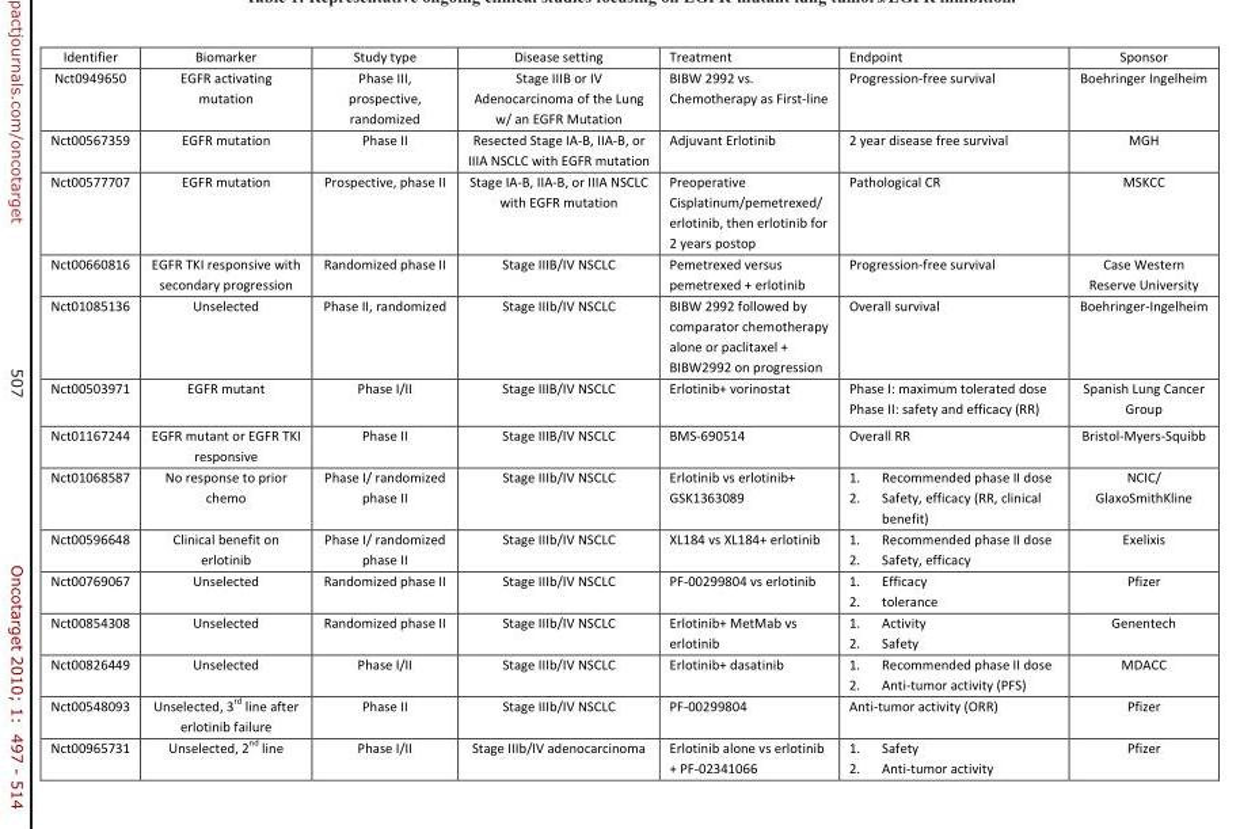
<table><thead><tr><td>Identifier</td><td>Biomarker</td><td>Study type</td><td>Disease setting</td><td>Treatment</td><td>Endpoint</td><td>Sponsor</td></tr></thead><tbody><tr><td>Nct0949650</td><td>EGFR activating mutation</td><td>Phase III, prospective, randomized</td><td>Stage IIIB or IV Adenocarcinoma of the Lung w/ an EGFR Mutation</td><td>BIBW 2992 vs. Chemotherapy as First-line</td><td>Progression-free survival</td><td>Boehringer Ingelheim</td></tr><tr><td>Nct00567359</td><td>EGFR mutation</td><td>Phase II</td><td>Resected Stage IA-B, IIA-B, or IIIA NSCLC with EGFR mutation</td><td>Adjuvant Erlotinib</td><td>2 year disease free survival</td><td>MGH</td></tr><tr><td>Nct00577707</td><td>EGFR mutation</td><td>Prospective, phase II</td><td>Stage IA-B, IIA-B, or IIIA NSCLC with EGFR mutation</td><td>Preoperative Cisplatinum/pemetrexed/ erlotinib, then erlotinib for 2 years postop</td><td>Pathological CR</td><td>MSKCC</td></tr><tr><td>Nct00660816</td><td>EGFR TKI responsive with secondary progression</td><td>Randomized phase II</td><td>Stage IIIB/IV NSCLC</td><td>Pemetrexed versus pemetrexed + erlotinib</td><td>Progression-free survival</td><td>Case Western Reserve University</td></tr><tr><td>Nct01085136</td><td>Unselected</td><td>Phase II, randomized</td><td>Stage IIIb/IV NSCLC</td><td>BIBW 2992 followed by comparator chemotherapy alone or paclitaxel + BIBW2992 on progression</td><td>Overall survival</td><td>Boehringer-Ingelheim</td></tr><tr><td>Nct00503971</td><td>EGFR mutant</td><td>Phase I/II</td><td>Stage IIIB/IV NSCLC</td><td>Erlotinib+ vorinostat</td><td>Phase I: maximum tolerated dose Phase II: safety and efficacy (RR)</td><td>Spanish Lung Cancer Group</td></tr><tr><td>Nct01167244</td><td>EGFR mutant or EGFR TKI responsive</td><td>Phase II</td><td>Stage IIIB/IV NSCLC</td><td>BMS-690514</td><td>Overall RR</td><td>Bristol-Myers-Squibb</td></tr><tr><td>Nct01068587</td><td>No response to prior chemo</td><td>Phase I/ randomized phase II</td><td>Stage IIIb/IV NSCLC</td><td>Erlotinib vs erlotinib+ GSK1363089</td><td>1. Recommended phase II dose 2. Safety, efficacy (RR, clinical benefit)</td><td>NCIC/ GlaxoSmithKline</td></tr><tr><td>Nct00596648</td><td>Clinical benefit on erlotinib</td><td>Phase I/ randomized phase II</td><td>Stage IIIb/IV NSCLC</td><td>XL184 vs XL184+ erlotinib</td><td>1. Recommended phase II dose 2. Safety, efficacy</td><td>Exelixis</td></tr><tr><td>Nct00769067</td><td>Unselected</td><td>Randomized phase II</td><td>Stage IIIb/IV NSCLC</td><td>PF-00299804 vs erlotinib</td><td>1. Efficacy 2. tolerance</td><td>Pfizer</td></tr><tr><td>Nct00854308</td><td>Unselected</td><td>Randomized phase II</td><td>Stage IIIb/IV NSCLC</td><td>Erlotinib+ MetMab vs erlotinib</td><td>1. Activity 2. Safety</td><td>Genentech</td></tr><tr><td>Nct00826449</td><td>Unselected</td><td>Phase I/II</td><td>Stage IIIb/IV NSCLC</td><td>Erlotinib+ dasatinib</td><td>1. Recommended phase II dose 2. Anti-tumor activity (PFS)</td><td>MDACC</td></tr><tr><td>Nct00548093</td><td>Unselected, 3 <sup>rd</sup> line after erlotinib failure</td><td>Phase II</td><td>Stage IIIb/IV NSCLC</td><td>PF-00299804</td><td>Anti-tumor activity (ORR)</td><td>Pfizer</td></tr><tr><td>Nct00965731</td><td>Unselected, 2 <sup>nd</sup> line</td><td>Phase I/II</td><td>Stage IIIb/IV adenocarcinoma</td><td>Erlotinib alone vs erlotinib + PF-02341066</td><td>1. Safety 2. Anti-tumor activity</td><td>Pfizer</td></tr></tbody></table>